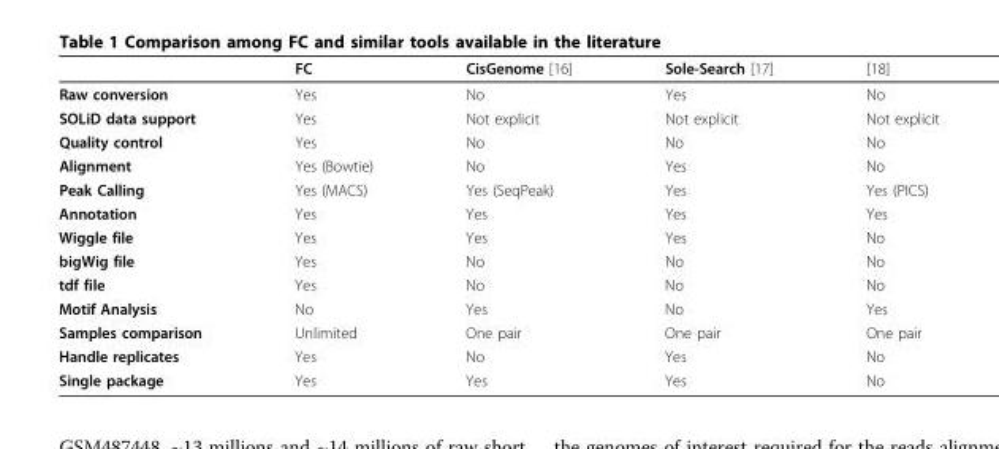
<table><thead><tr><td></td><td>FC</td><td>CisGenome [16]</td><td>Sole-Search [17]</td><td>[18]</td></tr></thead><tbody><tr><td>Raw conversion</td><td>Yes</td><td>No</td><td>Yes</td><td>No</td></tr><tr><td>SOLiD data support</td><td>Yes</td><td>Not explicit</td><td>Not explicit</td><td>Not explicit</td></tr><tr><td>Quality control</td><td>Yes</td><td>No</td><td>No</td><td>No</td></tr><tr><td>Alignment</td><td>Yes (Bowtie)</td><td>No</td><td>Yes</td><td>No</td></tr><tr><td>Peak Calling</td><td>Yes (MACS)</td><td>Yes (SeqPeak)</td><td>Yes</td><td>Yes (PICS)</td></tr><tr><td>Annotation</td><td>Yes</td><td>Yes</td><td>Yes</td><td>Yes</td></tr><tr><td>Wiggle file</td><td>Yes</td><td>Yes</td><td>Yes</td><td>No</td></tr><tr><td>bigWig file</td><td>Yes</td><td>No</td><td>No</td><td>No</td></tr><tr><td>tdf file</td><td>Yes</td><td>No</td><td>No</td><td>No</td></tr><tr><td>Motif Analysis</td><td>No</td><td>Yes</td><td>No</td><td>Yes</td></tr><tr><td>Samples comparison</td><td>Unlimited</td><td>One pair</td><td>One pair</td><td>One pair</td></tr><tr><td>Handle replicates</td><td>Yes</td><td>No</td><td>Yes</td><td>No</td></tr><tr><td>Single package</td><td>Yes</td><td>Yes</td><td>Yes</td><td>No</td></tr></tbody></table>